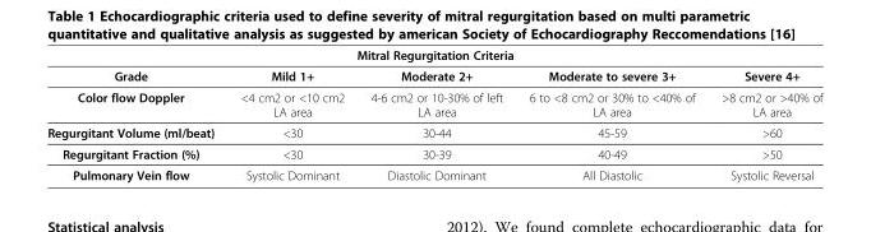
<table><thead><tr><td colspan="5">Mitral Regurgitation Criteria</td></tr><tr><td>Grade</td><td>Mild 1+</td><td>Moderate 2+</td><td>Moderate to severe 3+</td><td>Severe 4+</td></tr></thead><tbody><tr><td>Color flow Doppler</td><td>&lt;4 cm2 or &lt;10 cm2 LA area</td><td>4-6 cm2 or 10-30% of left LA area</td><td>6 to &lt;8 cm2 or 30% to &lt;40% of LA area</td><td>&gt;8 cm2 or &gt;40% of LA area</td></tr><tr><td>Regurgitant Volume (ml/beat)</td><td>&lt;30</td><td>30-44</td><td>45-59</td><td>&gt;60</td></tr><tr><td>Regurgitant Fraction (%)</td><td>&lt;30</td><td>30-39</td><td>40-49</td><td>&gt;50</td></tr><tr><td>Pulmonary Vein flow</td><td>Systolic Dominant</td><td>Diastolic Dominant</td><td>All Diastolic</td><td>Systolic Reversal</td></tr></tbody></table>